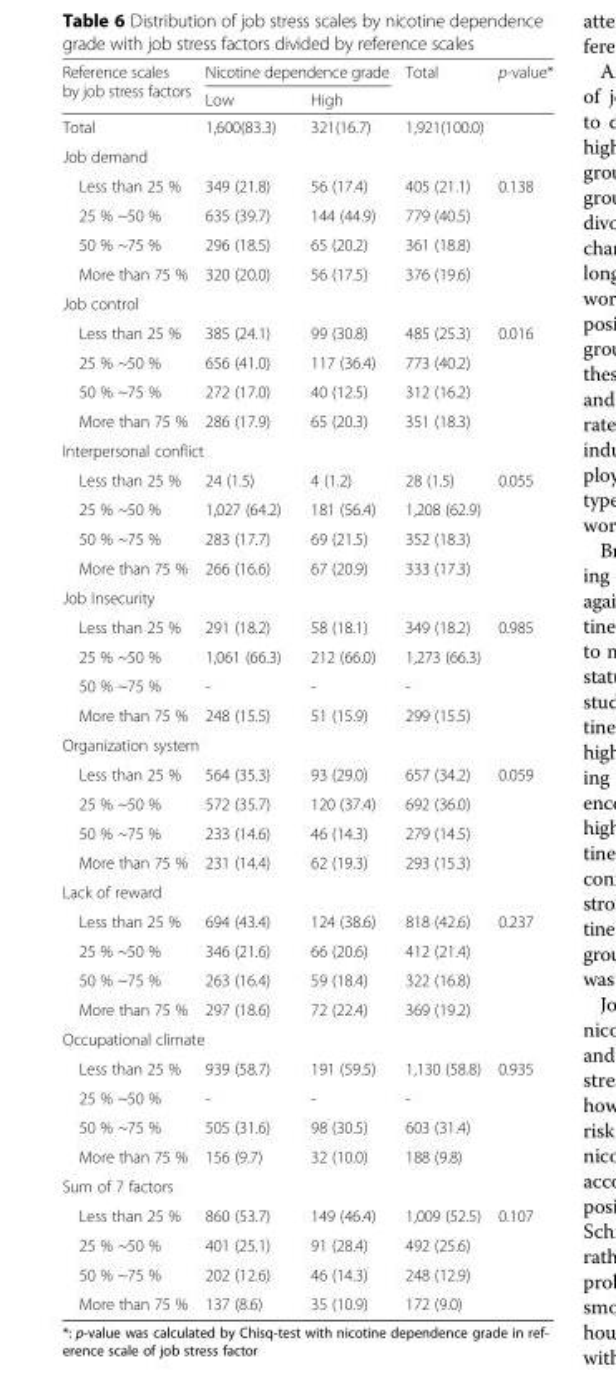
<table><thead><tr><td rowspan="2">Reference scales by job stress factors</td><td colspan="2">Nicotine dependence grade</td><td rowspan="2">Total</td><td rowspan="2">p-value*</td></tr><tr><td>Low</td><td>High</td></tr></thead><tbody><tr><td>Total</td><td>1,600(83.3)</td><td>321(16.7)</td><td>1,921(100.0)</td><td></td></tr><tr><td colspan="5">Job demand</td></tr><tr><td>Less than 25 %</td><td>349 (21.8)</td><td>56 (17.4)</td><td>405 (21.1)</td><td rowspan="4">0.138</td></tr><tr><td>25 % ~50 %</td><td>635 (39.7)</td><td>144 (44.9)</td><td>779 (40.5)</td></tr><tr><td>50 % ~75 %</td><td>296 (18.5)</td><td>65 (20.2)</td><td>361 (18.8)</td></tr><tr><td>More than 75 %</td><td>320 (20.0)</td><td>56 (17.5)</td><td>376 (19.6)</td></tr><tr><td colspan="5">Job control</td></tr><tr><td>Less than 25 %</td><td>385 (24.1)</td><td>99 (30.8)</td><td>485 (25.3)</td><td rowspan="4">0.016</td></tr><tr><td>25 % ~50 %</td><td>656 (41.0)</td><td>117 (36.4)</td><td>773 (40.2)</td></tr><tr><td>50 % ~75 %</td><td>272 (17.0)</td><td>40 (12.5)</td><td>312 (16.2)</td></tr><tr><td>More than 75 %</td><td>286 (17.9)</td><td>65 (20.3)</td><td>351 (18.3)</td></tr><tr><td colspan="5">Interpersonal conflict</td></tr><tr><td>Less than 25 %</td><td>24 (1.5)</td><td>4 (1.2)</td><td>28 (1.5)</td><td rowspan="4">0.055</td></tr><tr><td>25 % ~50 %</td><td>1,027 (64.2)</td><td>181 (56.4)</td><td>1,208 (62.9)</td></tr><tr><td>50 % ~75 %</td><td>283 (17.7)</td><td>69 (21.5)</td><td>352 (18.3)</td></tr><tr><td>More than 75 %</td><td>266 (16.6)</td><td>67 (20.9)</td><td>333 (17.3)</td></tr><tr><td colspan="5">Job Insecurity</td></tr><tr><td>Less than 25 %</td><td>291 (18.2)</td><td>58 (18.1)</td><td>349 (18.2)</td><td rowspan="4">0.985</td></tr><tr><td>25 % ~50 %</td><td>1,061 (66.3)</td><td>212 (66.0)</td><td>1,273 (66.3)</td></tr><tr><td>50 % ~75 %</td><td>-</td><td>-</td><td>-</td></tr><tr><td>More than 75 %</td><td>248 (15.5)</td><td>51 (15.9)</td><td>299 (15.5)</td></tr><tr><td colspan="5">Organization system</td></tr><tr><td>Less than 25 %</td><td>564 (35.3)</td><td>93 (29.0)</td><td>657 (34.2)</td><td rowspan="4">0.059</td></tr><tr><td>25 % ~50 %</td><td>572 (35.7)</td><td>120 (37.4)</td><td>692 (36.0)</td></tr><tr><td>50 % ~75 %</td><td>233 (14.6)</td><td>46 (14.3)</td><td>279 (14.5)</td></tr><tr><td>More than 75 %</td><td>231 (14.4)</td><td>62 (19.3)</td><td>293 (15.3)</td></tr><tr><td colspan="5">Lack of reward</td></tr><tr><td>Less than 25 %</td><td>694 (43.4)</td><td>124 (38.6)</td><td>818 (42.6)</td><td rowspan="4">0.237</td></tr><tr><td>25 % ~50 %</td><td>346 (21.6)</td><td>66 (20.6)</td><td>412 (21.4)</td></tr><tr><td>50 % ~75 %</td><td>263 (16.4)</td><td>59 (18.4)</td><td>322 (16.8)</td></tr><tr><td>More than 75 %</td><td>297 (18.6)</td><td>72 (22.4)</td><td>369 (19.2)</td></tr><tr><td colspan="5">Occupational climate</td></tr><tr><td>Less than 25 %</td><td>939 (58.7)</td><td>191 (59.5)</td><td>1,130 (58.8)</td><td rowspan="4">0.935</td></tr><tr><td>25 % ~50 %</td><td>-</td><td>-</td><td>-</td></tr><tr><td>50 % ~75 %</td><td>505 (31.6)</td><td>98 (30.5)</td><td>603 (31.4)</td></tr><tr><td>More than 75 %</td><td>156 (9.7)</td><td>32 (10.0)</td><td>188 (9.8)</td></tr><tr><td colspan="5">Sum of 7 factors</td></tr><tr><td>Less than 25 %</td><td>860 (53.7)</td><td>149 (46.4)</td><td>1,009 (52.5)</td><td rowspan="4">0.107</td></tr><tr><td>25 % ~50 %</td><td>401 (25.1)</td><td>91 (28.4)</td><td>492 (25.6)</td></tr><tr><td>50 % ~75 %</td><td>202 (12.6)</td><td>46 (14.3)</td><td>248 (12.9)</td></tr><tr><td>More than 75 %</td><td>137 (8.6)</td><td>35 (10.9)</td><td>172 (9.0)</td></tr></tbody></table>